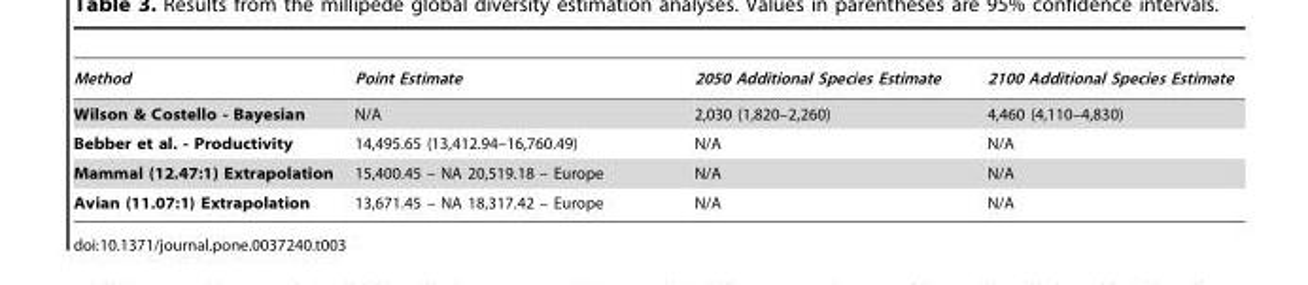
<table><thead><tr><td>Method</td><td>Point Estimate</td><td>2050 Additional Species Estimate</td><td>2100 Additional Species Estimate</td></tr></thead><tbody><tr><td>Wilson &amp; Costello - Bayesian</td><td>N/A</td><td>2,030 (1,820–2,260)</td><td>4,460 (4,110–4,830)</td></tr><tr><td>Bebber et al. - Productivity</td><td>14,495.65 (13,412.94–16,760.49)</td><td>N/A</td><td>N/A</td></tr><tr><td>Mammal (12.47:1) Extrapolation</td><td>15,400.45 – NA 20,519.18 – Europe</td><td>N/A</td><td>N/A</td></tr><tr><td>Avian (11.07:1) Extrapolation</td><td>13,671.45 – NA 18,317.42 – Europe</td><td>N/A</td><td>N/A</td></tr></tbody></table>